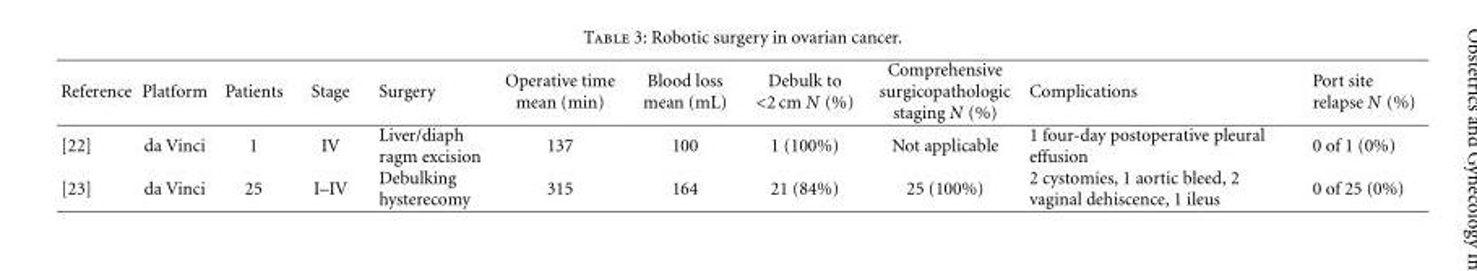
<table><thead><tr><td>Reference</td><td>Platform</td><td>Patients</td><td>Stage</td><td>Surgery</td><td>Operative time mean (min)</td><td>Blood loss mean (mL)</td><td>Debulk to &lt;2 cm N (%)</td><td>Comprehensive surgicopathologic staging N (%)</td><td>Complications</td><td>Port site relapse N (%)</td></tr></thead><tbody><tr><td>[22]</td><td>da Vinci</td><td>1</td><td>IV</td><td>Liver/diaph ragm excision</td><td>137</td><td>100</td><td>1 (100%)</td><td>Not applicable</td><td>1 four-day postoperative pleural effusion</td><td>0 of 1 (0%)</td></tr><tr><td>[23]</td><td>da Vinci</td><td>25</td><td>I–IV</td><td>Debulking hysterecomy</td><td>315</td><td>164</td><td>21 (84%)</td><td>25 (100%)</td><td>2 cystomies, 1 aortic bleed, 2 vaginal dehiscence, 1 ileus</td><td>0 of 25 (0%)</td></tr></tbody></table>